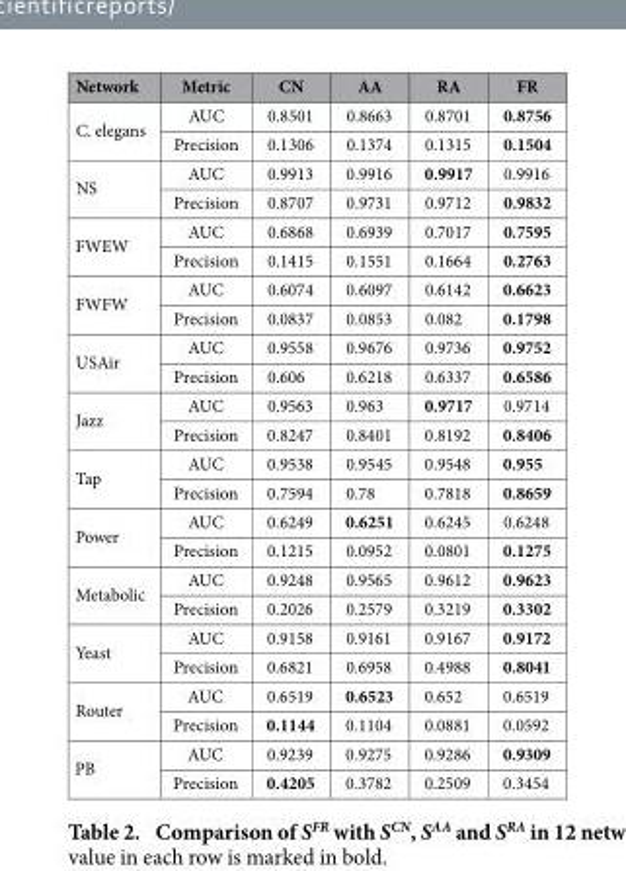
<table><thead><tr><td>Network</td><td>Metric</td><td>CN</td><td>AA</td><td>RA</td><td>FR</td></tr></thead><tbody><tr><td rowspan="2">C. elegans</td><td>AUC</td><td>0.8501</td><td>0.8663</td><td>0.8701</td><td>0.8756</td></tr><tr><td>Precision</td><td>0.1306</td><td>0.1374</td><td>0.1315</td><td>0.1504</td></tr><tr><td rowspan="2">NS</td><td>AUC</td><td>0.9913</td><td>0.9916</td><td>0.9917</td><td>0.9916</td></tr><tr><td>Precision</td><td>0.8707</td><td>0.9731</td><td>0.9712</td><td>0.9832</td></tr><tr><td rowspan="2">FWEW</td><td>AUC</td><td>0.6868</td><td>0.6939</td><td>0.7017</td><td>0.7595</td></tr><tr><td>Precision</td><td>0.1415</td><td>0.1551</td><td>0.1664</td><td>0.2763</td></tr><tr><td rowspan="2">FWFW</td><td>AUC</td><td>0.6074</td><td>0.6097</td><td>0.6142</td><td>0.6623</td></tr><tr><td>Precision</td><td>0.0837</td><td>0.0853</td><td>0.082</td><td>0.1798</td></tr><tr><td rowspan="2">USAir</td><td>AUC</td><td>0.9558</td><td>0.9676</td><td>0.9736</td><td>0.9752</td></tr><tr><td>Precision</td><td>0.606</td><td>0.6218</td><td>0.6337</td><td>0.6586</td></tr><tr><td rowspan="2">Jazz</td><td>AUC</td><td>0.9563</td><td>0.963</td><td>0.9717</td><td>0.9714</td></tr><tr><td>Precision</td><td>0.8247</td><td>0.8401</td><td>0.8192</td><td>0.8406</td></tr><tr><td rowspan="2">Tap</td><td>AUC</td><td>0.9538</td><td>0.9545</td><td>0.9548</td><td>0.955</td></tr><tr><td>Precision</td><td>0.7594</td><td>0.78</td><td>0.7818</td><td>0.8659</td></tr><tr><td rowspan="2">Power</td><td>AUC</td><td>0.6249</td><td>0.6251</td><td>0.6245</td><td>0.6248</td></tr><tr><td>Precision</td><td>0.1215</td><td>0.0952</td><td>0.0801</td><td>0.1275</td></tr><tr><td rowspan="2">Metabolic</td><td>AUC</td><td>0.9248</td><td>0.9565</td><td>0.9612</td><td>0.9623</td></tr><tr><td>Precision</td><td>0.2026</td><td>0.2579</td><td>0.3219</td><td>0.3302</td></tr><tr><td rowspan="2">Yeast</td><td>AUC</td><td>0.9158</td><td>0.9161</td><td>0.9167</td><td>0.9172</td></tr><tr><td>Precision</td><td>0.6821</td><td>0.6958</td><td>0.4988</td><td>0.8041</td></tr><tr><td rowspan="2">Router</td><td>AUC</td><td>0.6519</td><td>0.6523</td><td>0.652</td><td>0.6519</td></tr><tr><td>Precision</td><td>0.1144</td><td>0.1104</td><td>0.0881</td><td>0.0592</td></tr><tr><td rowspan="2">PB</td><td>AUC</td><td>0.9239</td><td>0.9275</td><td>0.9286</td><td>0.9309</td></tr><tr><td>Precision</td><td>0.4205</td><td>0.3782</td><td>0.2509</td><td>0.3454</td></tr></tbody></table>